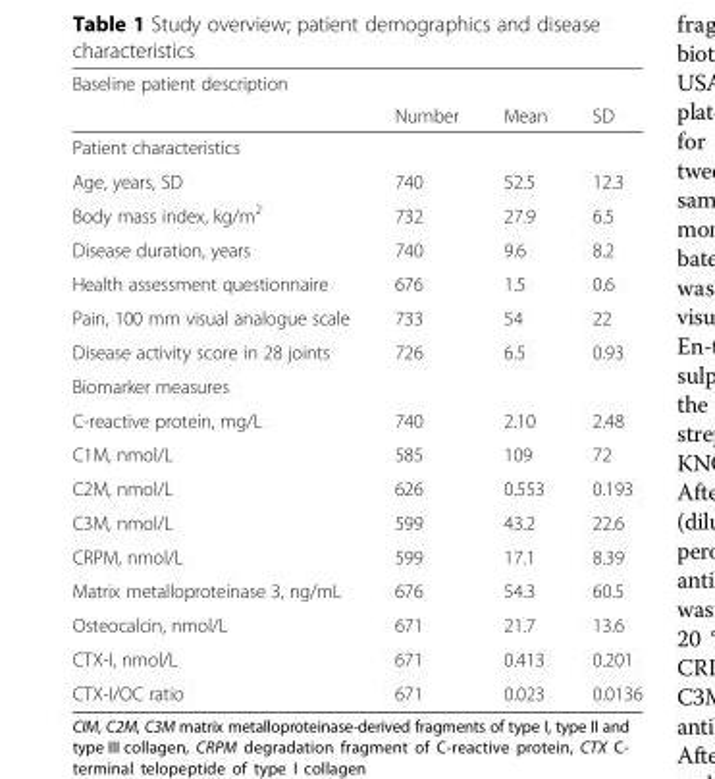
<table><thead><tr><td rowspan="2">Baseline patient description</td><td rowspan="2">Number</td><td rowspan="2">Mean</td><td rowspan="2">SD</td></tr><tr></tr></thead><tbody><tr><td colspan="4">Patient characteristics</td></tr><tr><td>Age, years, SD</td><td>740</td><td>52.5</td><td>12.3</td></tr><tr><td>Body mass index, kg/m<sup>2</sup></td><td>732</td><td>27.9</td><td>6.5</td></tr><tr><td>Disease duration, years</td><td>740</td><td>9.6</td><td>8.2</td></tr><tr><td>Health assessment questionnaire</td><td>676</td><td>1.5</td><td>0.6</td></tr><tr><td>Pain, 100 mm visual analogue scale</td><td>733</td><td>54</td><td>22</td></tr><tr><td>Disease activity score in 28 joints</td><td>726</td><td>6.5</td><td>0.93</td></tr><tr><td colspan="4">Biomarker measures</td></tr><tr><td>C-reactive protein, mg/L</td><td>740</td><td>2.10</td><td>2.48</td></tr><tr><td>C1M, nmol/L</td><td>585</td><td>109</td><td>72</td></tr><tr><td>C2M, nmol/L</td><td>626</td><td>0.553</td><td>0.193</td></tr><tr><td>C3M, nmol/L</td><td>599</td><td>43.2</td><td>22.6</td></tr><tr><td>CRPM, nmol/L</td><td>599</td><td>17.1</td><td>8.39</td></tr><tr><td>Matrix metalloproteinase 3, ng/mL</td><td>676</td><td>54.3</td><td>60.5</td></tr><tr><td>Osteocalcin, nmol/L</td><td>671</td><td>21.7</td><td>13.6</td></tr><tr><td>CTX-I, nmol/L</td><td>671</td><td>0.413</td><td>0.201</td></tr><tr><td>CTX-I/OC ratio</td><td>671</td><td>0.023</td><td>0.0136</td></tr></tbody></table>